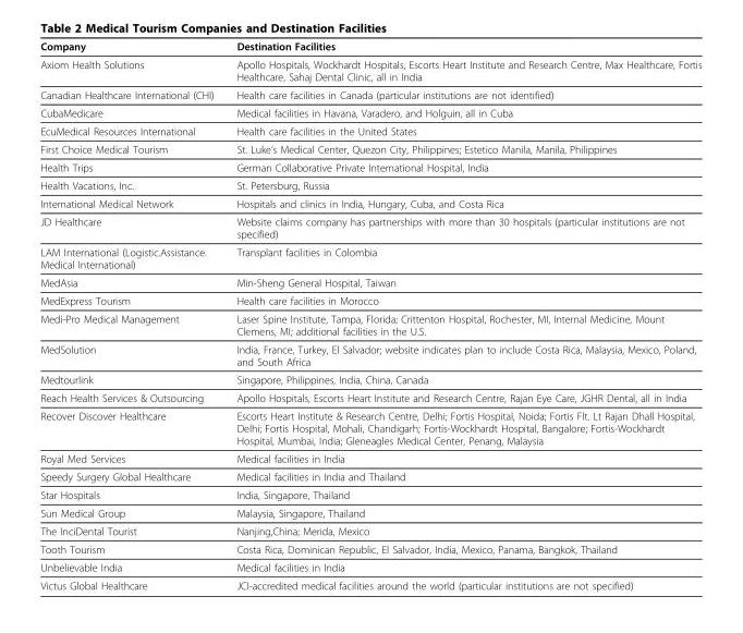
<table><thead><tr><td>Company</td><td>Destination Facilities</td></tr></thead><tbody><tr><td>Axiom Health Solutions</td><td>Apollo Hospitals, Wockhardt Hospitals, Escorts Heart Institute and Research Centre, Max Healthcare, Fortis Healthcare, Sahaj Dental Clinic, all in India</td></tr><tr><td>Canadian Healthcare International (CHI)</td><td>Health care facilities in Canada (particular institutions are not identified)</td></tr><tr><td>CubaMedicare</td><td>Medical facilities in Havana, Varadero, and Holguin, all in Cuba</td></tr><tr><td>EcuMedical Resources International</td><td>Health care facilities in the United States</td></tr><tr><td>First Choice Medical Tourism</td><td>St. Luke’s Medical Center, Quezon City, Philippines; Estetico Manila, Manila, Philippines</td></tr><tr><td>Health Trips</td><td>German Collaborative Private International Hospital, India</td></tr><tr><td>Health Vacations, Inc.</td><td>St. Petersburg, Russia</td></tr><tr><td>International Medical Network</td><td>Hospitals and clinics in India, Hungary, Cuba, and Costa Rica</td></tr><tr><td>JD Healthcare</td><td>Website claims company has partnerships with more than 30 hospitals (particular institutions are not specified)</td></tr><tr><td>LAM International (Logistic.Assistance. Medical International)</td><td>Transplant facilities in Colombia</td></tr><tr><td>MedAsia</td><td>Min-Sheng General Hospital, Taiwan</td></tr><tr><td>MedExpress Tourism</td><td>Health care facilities in Morocco</td></tr><tr><td>Medi-Pro Medical Management</td><td>Laser Spine Institute, Tampa, Florida; Crittenton Hospital, Rochester, MI, Internal Medicine, Mount Clemens, MI; additional facilities in the U.S.</td></tr><tr><td>MedSolution</td><td>India, France, Turkey, El Salvador; website indicates plan to include Costa Rica, Malaysia, Mexico, Poland, and South Africa</td></tr><tr><td>Medtourlink</td><td>Singapore, Philippines, India, China, Canada</td></tr><tr><td>Reach Health Services &amp; Outsourcing</td><td>Apollo Hospitals, Escorts Heart Institute and Research Centre, Rajan Eye Care, JGHR Dental, all in India</td></tr><tr><td>Recover Discover Healthcare</td><td>Escorts Heart Institute &amp; Research Centre, Delhi; Fortis Hospital, Noida; Fortis Flt. Lt Rajan Dhall Hospital, Delhi; Fortis Hospital, Mohali, Chandigarh; Fortis-Wockhardt Hospital, Bangalore; Fortis-Wockhardt Hospital, Mumbai, India; Gleneagles Medical Center, Penang, Malaysia</td></tr><tr><td>Royal Med Services</td><td>Medical facilities in India</td></tr><tr><td>Speedy Surgery Global Healthcare</td><td>Medical facilities in India and Thailand</td></tr><tr><td>Star Hospitals</td><td>India, Singapore, Thailand</td></tr><tr><td>Sun Medical Group</td><td>Malaysia, Singapore, Thailand</td></tr><tr><td>The InciDental Tourist</td><td>Nanjing,China; Merida, Mexico</td></tr><tr><td>Tooth Tourism</td><td>Costa Rica, Dominican Republic, El Salvador, India, Mexico, Panama, Bangkok, Thailand</td></tr><tr><td>Unbelievable India</td><td>Medical facilities in India</td></tr><tr><td>Victus Global Healthcare</td><td>JCI-accredited medical facilities around the world (particular institutions are not specified)</td></tr></tbody></table>